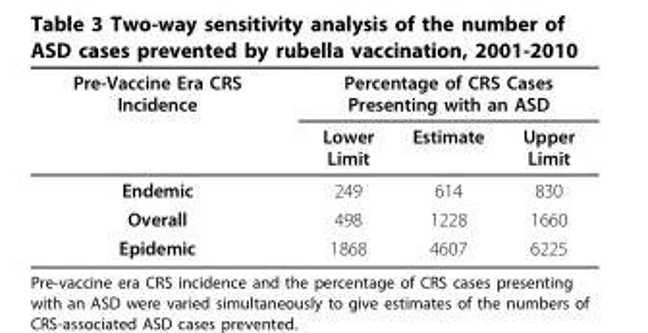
<table><thead><tr><td rowspan="2">Pre-Vaccine Era CRS Incidence</td><td colspan="3">Percentage of CRS Cases Presenting with an ASD</td></tr><tr><td>Lower Limit</td><td>Estimate</td><td>Upper Limit</td></tr></thead><tbody><tr><td>Endemic</td><td>249</td><td>614</td><td>830</td></tr><tr><td>Overall</td><td>498</td><td>1228</td><td>1660</td></tr><tr><td>Epidemic</td><td>1868</td><td>4607</td><td>6225</td></tr></tbody></table>